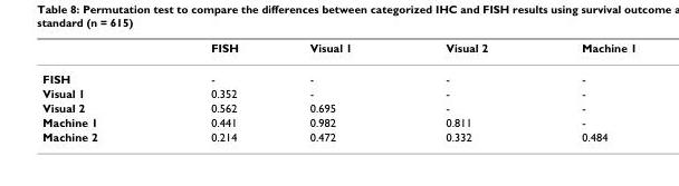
<table><thead><tr><td></td><td>FISH</td><td>Visual 1</td><td>Visual 2</td><td>Machine 1</td></tr></thead><tbody><tr><td>FISH</td><td>-</td><td>-</td><td>-</td><td>-</td></tr><tr><td>Visual 1</td><td>0.352</td><td>-</td><td>-</td><td>-</td></tr><tr><td>Visual 2</td><td>0.562</td><td>0.695</td><td>-</td><td>-</td></tr><tr><td>Machine 1</td><td>0.441</td><td>0.982</td><td>0.811</td><td>-</td></tr><tr><td>Machine 2</td><td>0.214</td><td>0.472</td><td>0.332</td><td>0.484</td></tr></tbody></table>